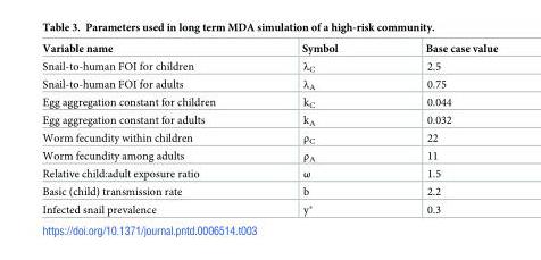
<table><thead><tr><td>Variable name</td><td>Symbol</td><td>Base case value</td></tr></thead><tbody><tr><td>Snail-to-human FOI for children</td><td>λ<sub>C</sub></td><td>2.5</td></tr><tr><td>Snail-to-human FOI for adults</td><td>λ<sub>A</sub></td><td>0.75</td></tr><tr><td>Egg aggregation constant for children</td><td>k<sub>C</sub></td><td>0.044</td></tr><tr><td>Egg aggregation constant for adults</td><td>k<sub>A</sub></td><td>0.032</td></tr><tr><td>Worm fecundity within children</td><td>ρ<sub>C</sub></td><td>22</td></tr><tr><td>Worm fecundity among adults</td><td>ρ<sub>A</sub></td><td>11</td></tr><tr><td>Relative child:adult exposure ratio</td><td>ω</td><td>1.5</td></tr><tr><td>Basic (child) transmission rate</td><td>b</td><td>2.2</td></tr><tr><td>Infected snail prevalence</td><td>y*</td><td>0.3</td></tr></tbody></table>